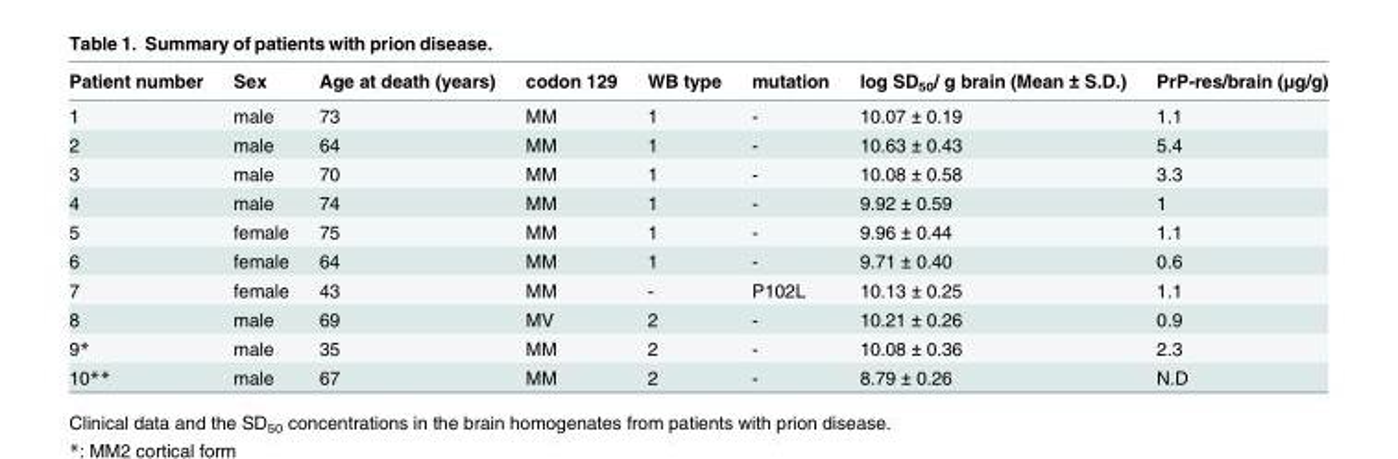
<table><thead><tr><td>Patient number</td><td>Sex</td><td>Age at death (years)</td><td>codon 129</td><td>WB type</td><td>mutation</td><td>log SD<sub>50</sub>/ g brain (Mean ± S.D.)</td><td>PrP-res/brain (μg/g)</td></tr></thead><tbody><tr><td>1</td><td>male</td><td>73</td><td>MM</td><td>1</td><td>-</td><td>10.07 ± 0.19</td><td>1.1</td></tr><tr><td>2</td><td>male</td><td>64</td><td>MM</td><td>1</td><td>-</td><td>10.63 ± 0.43</td><td>5.4</td></tr><tr><td>3</td><td>male</td><td>70</td><td>MM</td><td>1</td><td>-</td><td>10.08 ± 0.58</td><td>3.3</td></tr><tr><td>4</td><td>male</td><td>74</td><td>MM</td><td>1</td><td>-</td><td>9.92 ± 0.59</td><td>1</td></tr><tr><td>5</td><td>female</td><td>75</td><td>MM</td><td>1</td><td>-</td><td>9.96 ± 0.44</td><td>1.1</td></tr><tr><td>6</td><td>female</td><td>64</td><td>MM</td><td>1</td><td>-</td><td>9.71 ± 0.40</td><td>0.6</td></tr><tr><td>7</td><td>female</td><td>43</td><td>MM</td><td>-</td><td>P102L</td><td>10.13 ± 0.25</td><td>1.1</td></tr><tr><td>8</td><td>male</td><td>69</td><td>MV</td><td>2</td><td>-</td><td>10.21 ± 0.26</td><td>0.9</td></tr><tr><td>9*</td><td>male</td><td>35</td><td>MM</td><td>2</td><td>-</td><td>10.08 ± 0.36</td><td>2.3</td></tr><tr><td>10**</td><td>male</td><td>67</td><td>MM</td><td>2</td><td>-</td><td>8.79 ± 0.26</td><td>N.D</td></tr></tbody></table>